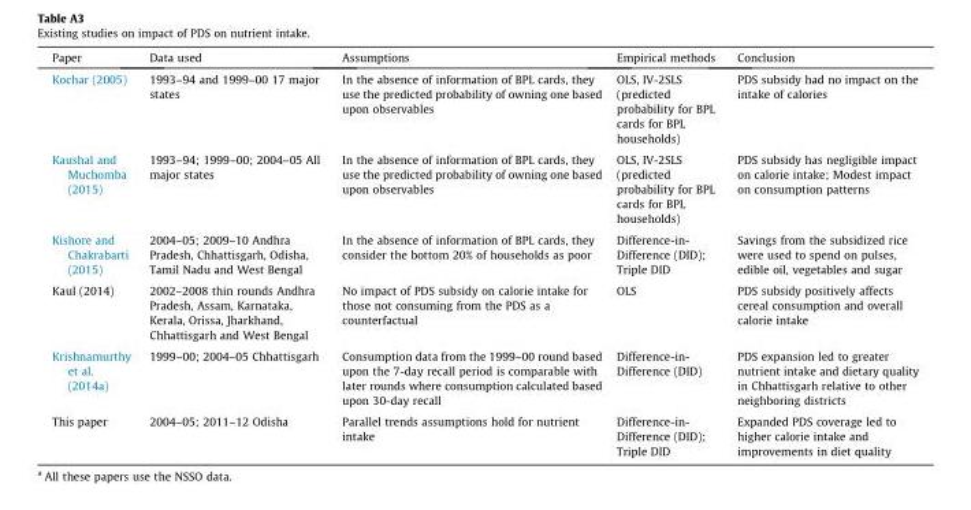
<table><thead><tr><td>Paper</td><td>Data used</td><td>Assumptions</td><td>Empirical methods</td><td>Conclusion</td></tr></thead><tbody><tr><td>Kochar (2005)</td><td>1993–94 and 1999–00 17 major states</td><td>In the absence of information of BPL cards, they use the predicted probability of owning one based upon observables</td><td>OLS, IV-2SLS (predicted probability for BPL cards for BPL households)</td><td>PDS subsidy had no impact on the intake of calories</td></tr><tr><td>Kaushal and Muchomba (2015)</td><td>1993–94; 1999–00; 2004–05 All major states</td><td>In the absence of information of BPL cards, they use the predicted probability of owning one based upon observables</td><td>OLS, IV-2SLS (predicted probability for BPL cards for BPL households)</td><td>PDS subsidy has negligible impact on calorie intake; Modest impact on consumption patterns</td></tr><tr><td>Kishore and Chakrabarti (2015)</td><td>2004–05; 2009–10 Andhra Pradesh, Chhattisgarh, Odisha, Tamil Nadu and West Bengal</td><td>In the absence of information of BPL cards, they consider the bottom 20% of households as poor</td><td>Difference-in- Difference (DID); Triple DID</td><td>Savings from the subsidized rice were used to spend on pulses, edible oil, vegetables and sugar</td></tr><tr><td>Kaul (2014)</td><td>2002–2008 thin rounds Andhra Pradesh, Assam, Karnataka, Kerala, Orissa, Jharkhand, Chhattisgarh and West Bengal</td><td>No impact of PDS subsidy on calorie intake for those not consuming from the PDS as a counterfactual</td><td>OLS</td><td>PDS subsidy positively affects cereal consumption and overall calorie intake</td></tr><tr><td>Krishnamurthy et al. (2014a)</td><td>1999–00; 2004–05 Chhattisgarh</td><td>Consumption data from the 1999–00 round based upon the 7-day recall period is comparable with later rounds where consumption calculated based upon 30-day recall</td><td>Difference-in- Difference (DID)</td><td>PDS expansion led to greater nutrient intake and dietary quality in Chhattisgarh relative to other neighboring districts</td></tr><tr><td>This paper</td><td>2004–05; 2011–12 Odisha</td><td>Parallel trends assumptions hold for nutrient intake</td><td>Difference-in- Difference (DID); Triple DID</td><td>Expanded PDS coverage led to higher calorie intake and improvements in diet quality</td></tr></tbody></table>